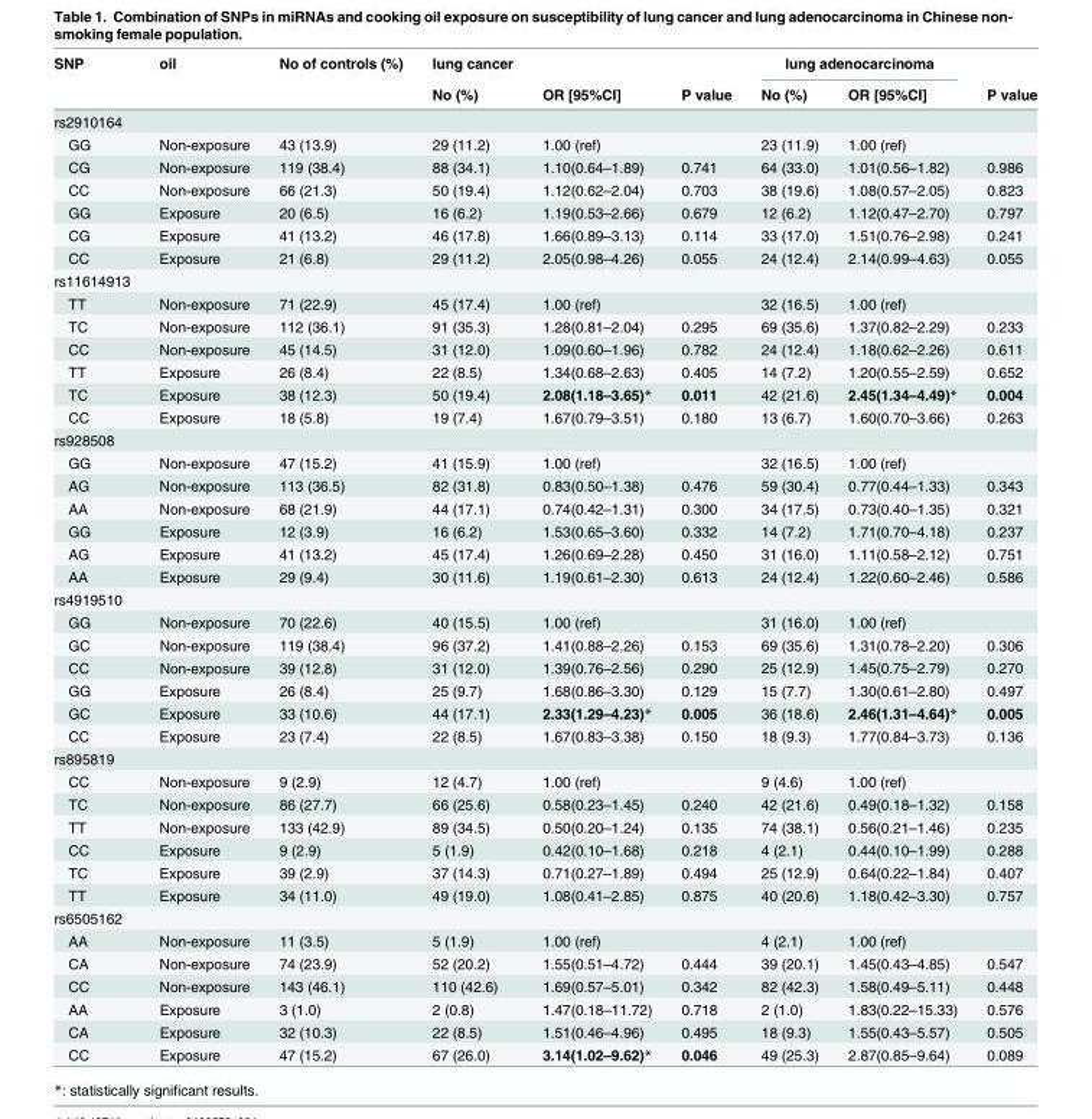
<table><thead><tr><td rowspan="2">SNP</td><td rowspan="2">oil</td><td rowspan="2">No of controls (%)</td><td rowspan="2">lung cancer No (%)</td><td rowspan="2">OR [95%CI]</td><td rowspan="2">P value</td><td colspan="2">lung adenocarcinoma</td><td rowspan="2">P value</td></tr><tr><td>No (%)</td><td>OR [95%CI]</td></tr></thead><tbody><tr><td colspan="9">rs2910164</td></tr><tr><td>GG</td><td>Non-exposure</td><td>43 (13.9)</td><td>29 (11.2)</td><td>1.00 (ref)</td><td></td><td>23 (11.9)</td><td>1.00 (ref)</td><td></td></tr><tr><td>CG</td><td>Non-exposure</td><td>119 (38.4)</td><td>88 (34.1)</td><td>1.10(0.64–1.89)</td><td>0.741</td><td>64 (33.0)</td><td>1.01(0.56–1.82)</td><td>0.986</td></tr><tr><td>CC</td><td>Non-exposure</td><td>66 (21.3)</td><td>50 (19.4)</td><td>1.12(0.62–2.04)</td><td>0.703</td><td>38 (19.6)</td><td>1.08(0.57–2.05)</td><td>0.823</td></tr><tr><td>GG</td><td>Exposure</td><td>20 (6.5)</td><td>16 (6.2)</td><td>1.19(0.53–2.66)</td><td>0.679</td><td>12 (6.2)</td><td>1.12(0.47–2.70)</td><td>0.797</td></tr><tr><td>CG</td><td>Exposure</td><td>41 (13.2)</td><td>46 (17.8)</td><td>1.66(0.89–3.13)</td><td>0.114</td><td>33 (17.0)</td><td>1.51(0.76–2.98)</td><td>0.241</td></tr><tr><td>CC</td><td>Exposure</td><td>21 (6.8)</td><td>29 (11.2)</td><td>2.05(0.98–4.26)</td><td>0.055</td><td>24 (12.4)</td><td>2.14(0.99–4.63)</td><td>0.055</td></tr><tr><td colspan="9">rs11614913</td></tr><tr><td>TT</td><td>Non-exposure</td><td>71 (22.9)</td><td>45 (17.4)</td><td>1.00 (ref)</td><td></td><td>32 (16.5)</td><td>1.00 (ref)</td><td></td></tr><tr><td>TC</td><td>Non-exposure</td><td>112 (36.1)</td><td>91 (35.3)</td><td>1.28(0.81–2.04)</td><td>0.295</td><td>69 (35.6)</td><td>1.37(0.82–2.29)</td><td>0.233</td></tr><tr><td>CC</td><td>Non-exposure</td><td>45 (14.5)</td><td>31 (12.0)</td><td>1.09(0.60–1.96)</td><td>0.782</td><td>24 (12.4)</td><td>1.18(0.62–2.26)</td><td>0.611</td></tr><tr><td>TT</td><td>Exposure</td><td>26 (8.4)</td><td>22 (8.5)</td><td>1.34(0.68–2.63)</td><td>0.405</td><td>14 (7.2)</td><td>1.20(0.55–2.59)</td><td>0.652</td></tr><tr><td>TC</td><td>Exposure</td><td>38 (12.3)</td><td>50 (19.4)</td><td>2.08(1.18–3.65)*</td><td>0.011</td><td>42 (21.6)</td><td>2.45(1.34–4.49)*</td><td>0.004</td></tr><tr><td>CC</td><td>Exposure</td><td>18 (5.8)</td><td>19 (7.4)</td><td>1.67(0.79–3.51)</td><td>0.180</td><td>13 (6.7)</td><td>1.60(0.70–3.66)</td><td>0.263</td></tr><tr><td colspan="9">rs928508</td></tr><tr><td>GG</td><td>Non-exposure</td><td>47 (15.2)</td><td>41 (15.9)</td><td>1.00 (ref)</td><td></td><td>32 (16.5)</td><td>1.00 (ref)</td><td></td></tr><tr><td>AG</td><td>Non-exposure</td><td>113 (36.5)</td><td>82 (31.8)</td><td>0.83(0.50–1.38)</td><td>0.476</td><td>59 (30.4)</td><td>0.77(0.44–1.33)</td><td>0.343</td></tr><tr><td>AA</td><td>Non-exposure</td><td>68 (21.9)</td><td>44 (17.1)</td><td>0.74(0.42–1.31)</td><td>0.300</td><td>34 (17.5)</td><td>0.73(0.40–1.35)</td><td>0.321</td></tr><tr><td>GG</td><td>Exposure</td><td>12 (3.9)</td><td>16 (6.2)</td><td>1.53(0.65–3.60)</td><td>0.332</td><td>14 (7.2)</td><td>1.71(0.70–4.18)</td><td>0.237</td></tr><tr><td>AG</td><td>Exposure</td><td>41 (13.2)</td><td>45 (17.4)</td><td>1.26(0.69–2.28)</td><td>0.450</td><td>31 (16.0)</td><td>1.11(0.58–2.12)</td><td>0.751</td></tr><tr><td>AA</td><td>Exposure</td><td>29 (9.4)</td><td>30 (11.6)</td><td>1.19(0.61–2.30)</td><td>0.613</td><td>24 (12.4)</td><td>1.22(0.60–2.46)</td><td>0.586</td></tr><tr><td colspan="9">rs4919510</td></tr><tr><td>GG</td><td>Non-exposure</td><td>70 (22.6)</td><td>40 (15.5)</td><td>1.00 (ref)</td><td></td><td>31 (16.0)</td><td>1.00 (ref)</td><td></td></tr><tr><td>GC</td><td>Non-exposure</td><td>119 (38.4)</td><td>96 (37.2)</td><td>1.41(0.88–2.26)</td><td>0.153</td><td>69 (35.6)</td><td>1.31(0.78–2.20)</td><td>0.306</td></tr><tr><td>CC</td><td>Non-exposure</td><td>39 (12.8)</td><td>31 (12.0)</td><td>1.39(0.76–2.56)</td><td>0.290</td><td>25 (12.9)</td><td>1.45(0.75–2.79)</td><td>0.270</td></tr><tr><td>GG</td><td>Exposure</td><td>26 (8.4)</td><td>25 (9.7)</td><td>1.68(0.86–3.30)</td><td>0.129</td><td>15 (7.7)</td><td>1.30(0.61–2.80)</td><td>0.497</td></tr><tr><td>GC</td><td>Exposure</td><td>33 (10.6)</td><td>44 (17.1)</td><td>2.33(1.29–4.23)*</td><td>0.005</td><td>36 (18.6)</td><td>2.46(1.31–4.64)*</td><td>0.005</td></tr><tr><td>CC</td><td>Exposure</td><td>23 (7.4)</td><td>22 (8.5)</td><td>1.67(0.83–3.38)</td><td>0.150</td><td>18 (9.3)</td><td>1.77(0.84–3.73)</td><td>0.136</td></tr><tr><td colspan="9">rs895819</td></tr><tr><td>CC</td><td>Non-exposure</td><td>9 (2.9)</td><td>12 (4.7)</td><td>1.00 (ref)</td><td></td><td>9 (4.6)</td><td>1.00 (ref)</td><td></td></tr><tr><td>TC</td><td>Non-exposure</td><td>86 (27.7)</td><td>66 (25.6)</td><td>0.58(0.23–1.45)</td><td>0.240</td><td>42 (21.6)</td><td>0.49(0.18–1.32)</td><td>0.158</td></tr><tr><td>TT</td><td>Non-exposure</td><td>133 (42.9)</td><td>89 (34.5)</td><td>0.50(0.20–1.24)</td><td>0.135</td><td>74 (38.1)</td><td>0.56(0.21–1.46)</td><td>0.235</td></tr><tr><td>CC</td><td>Exposure</td><td>9 (2.9)</td><td>5 (1.9)</td><td>0.42(0.10–1.68)</td><td>0.218</td><td>4 (2.1)</td><td>0.44(0.10–1.99)</td><td>0.288</td></tr><tr><td>TC</td><td>Exposure</td><td>39 (2.9)</td><td>37 (14.3)</td><td>0.71(0.27–1.89)</td><td>0.494</td><td>25 (12.9)</td><td>0.64(0.22–1.84)</td><td>0.407</td></tr><tr><td>TT</td><td>Exposure</td><td>34 (11.0)</td><td>49 (19.0)</td><td>1.08(0.41–2.85)</td><td>0.875</td><td>40 (20.6)</td><td>1.18(0.42–3.30)</td><td>0.757</td></tr><tr><td colspan="9">rs6505162</td></tr><tr><td>AA</td><td>Non-exposure</td><td>11 (3.5)</td><td>5 (1.9)</td><td>1.00 (ref)</td><td></td><td>4 (2.1)</td><td>1.00 (ref)</td><td></td></tr><tr><td>CA</td><td>Non-exposure</td><td>74 (23.9)</td><td>52 (20.2)</td><td>1.55(0.51–4.72)</td><td>0.444</td><td>39 (20.1)</td><td>1.45(0.43–4.85)</td><td>0.547</td></tr><tr><td>CC</td><td>Non-exposure</td><td>143 (46.1)</td><td>110 (42.6)</td><td>1.69(0.57–5.01)</td><td>0.342</td><td>82 (42.3)</td><td>1.58(0.49–5.11)</td><td>0.448</td></tr><tr><td>AA</td><td>Exposure</td><td>3 (1.0)</td><td>2 (0.8)</td><td>1.47(0.18–11.72)</td><td>0.718</td><td>2 (1.0)</td><td>1.83(0.22–15.33)</td><td>0.576</td></tr><tr><td>CA</td><td>Exposure</td><td>32 (10.3)</td><td>22 (8.5)</td><td>1.51(0.46–4.96)</td><td>0.495</td><td>18 (9.3)</td><td>1.55(0.43–5.57)</td><td>0.505</td></tr><tr><td>CC</td><td>Exposure</td><td>47 (15.2)</td><td>67 (26.0)</td><td>3.14(1.02–9.62)*</td><td>0.046</td><td>49 (25.3)</td><td>2.87(0.85–9.64)</td><td>0.089</td></tr></tbody></table>